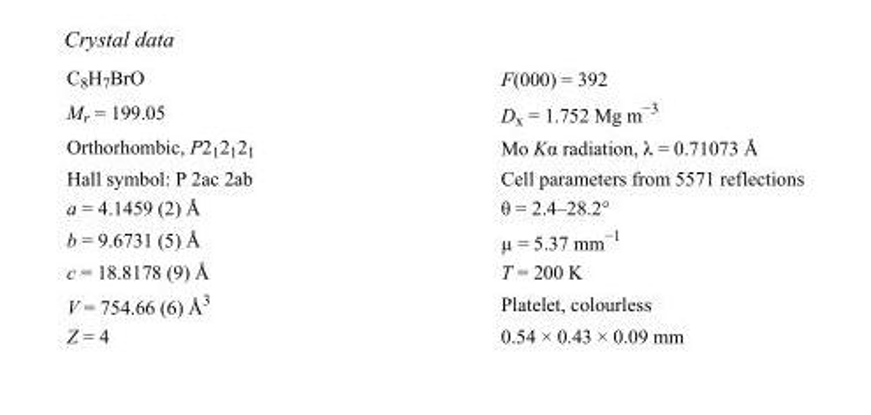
<table><tbody><tr><td>C<sub>8</sub>H<sub>7</sub>BrO</td><td>F(000) = 392</td></tr><tr><td>M<sub>r</sub> = 199.05</td><td>D<sub>x</sub> = 1.752 Mg m<sup>−3</sup></td></tr><tr><td>Orthorhombic, P2<sub>1</sub>2<sub>1</sub>2<sub>1</sub></td><td>Mo Kα radiation, λ = 0.71073 Å</td></tr><tr><td>Hall symbol: P 2ac 2ab</td><td>Cell parameters from 5571 reflections</td></tr><tr><td>a = 4.1459 (2) Å</td><td>θ = 2.4–28.2°</td></tr><tr><td>b = 9.6731 (5) Å</td><td>µ = 5.37 mm<sup>−1</sup></td></tr><tr><td>c = 18.8178 (9) Å</td><td>T = 200 K</td></tr><tr><td>V = 754.66 (6) Å<sup>3</sup></td><td>Platelet, colourless</td></tr><tr><td>Z = 4</td><td>0.54 × 0.43 × 0.09 mm</td></tr></tbody></table>